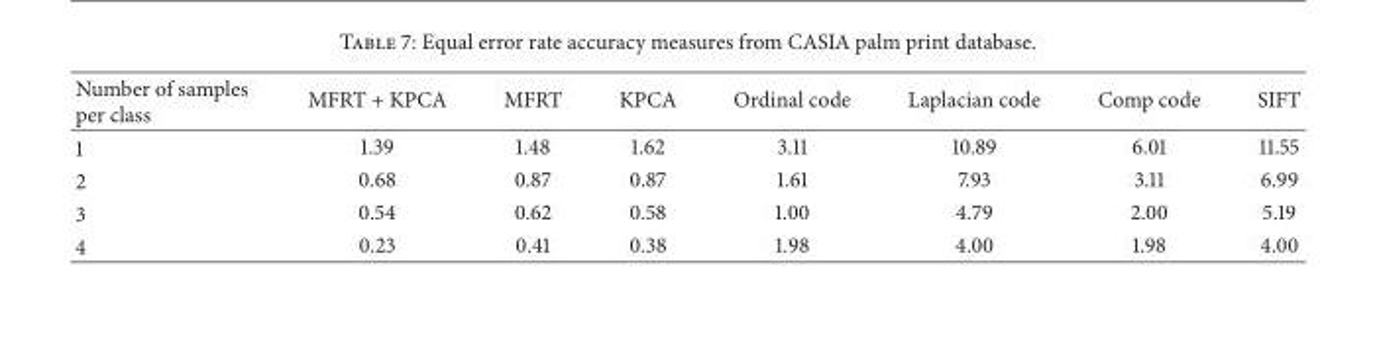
<table><thead><tr><td>Number of samples per class</td><td>MFRT + KPCA</td><td>MFRT</td><td>KPCA</td><td>Ordinal code</td><td>Laplacian code</td><td>Comp code</td><td>SIFT</td></tr></thead><tbody><tr><td>1</td><td>1.39</td><td>1.48</td><td>1.62</td><td>3.11</td><td>10.89</td><td>6.01</td><td>11.55</td></tr><tr><td>2</td><td>0.68</td><td>0.87</td><td>0.87</td><td>1.61</td><td>7.93</td><td>3.11</td><td>6.99</td></tr><tr><td>3</td><td>0.54</td><td>0.62</td><td>0.58</td><td>1.00</td><td>4.79</td><td>2.00</td><td>5.19</td></tr><tr><td>4</td><td>0.23</td><td>0.41</td><td>0.38</td><td>1.98</td><td>4.00</td><td>1.98</td><td>4.00</td></tr></tbody></table>